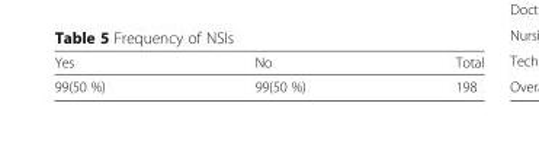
<table><thead><tr><td>Yes</td><td>No</td><td>Total</td></tr></thead><tbody><tr><td>99(50 %)</td><td>99(50 %)</td><td>198</td></tr></tbody></table>